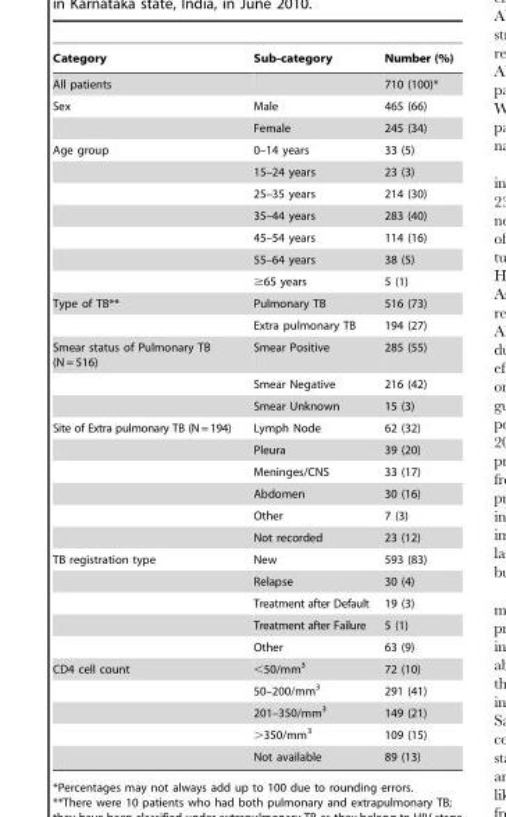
<table><thead><tr><td>Category</td><td>Sub-category</td><td>Number (%)</td></tr></thead><tbody><tr><td>All patients</td><td></td><td>710 (100)*</td></tr><tr><td rowspan="2">Sex</td><td>Male</td><td>465 (66)</td></tr><tr><td>Female</td><td>245 (34)</td></tr><tr><td rowspan="7">Age group</td><td>0–14 years</td><td>33 (5)</td></tr><tr><td>15–24 years</td><td>23 (3)</td></tr><tr><td>25–35 years</td><td>214 (30)</td></tr><tr><td>35–44 years</td><td>283 (40)</td></tr><tr><td>45–54 years</td><td>114 (16)</td></tr><tr><td>55–64 years</td><td>38 (5)</td></tr><tr><td>≥65 years</td><td>5 (1)</td></tr><tr><td rowspan="2">Type of TB**</td><td>Pulmonary TB</td><td>516 (73)</td></tr><tr><td>Extra pulmonary TB</td><td>194 (27)</td></tr><tr><td rowspan="3">Smear status of Pulmonary TB (N = 516)</td><td>Smear Positive</td><td>285 (55)</td></tr><tr><td>Smear Negative</td><td>216 (42)</td></tr><tr><td>Smear Unknown</td><td>15 (3)</td></tr><tr><td rowspan="6">Site of Extra pulmonary TB (N=194)</td><td>Lymph Node</td><td>62 (32)</td></tr><tr><td>Pleura</td><td>39 (20)</td></tr><tr><td>Meninges/CNS</td><td>33 (17)</td></tr><tr><td>Abdomen</td><td>30 (16)</td></tr><tr><td>Other</td><td>7 (3)</td></tr><tr><td>Not recorded</td><td>23 (12)</td></tr><tr><td rowspan="5">TB registration type</td><td>New</td><td>593 (83)</td></tr><tr><td>Relapse</td><td>30 (4)</td></tr><tr><td>Treatment after Default</td><td>19 (3)</td></tr><tr><td>Treatment after Failure</td><td>5 (1)</td></tr><tr><td>Other</td><td>63 (9)</td></tr><tr><td rowspan="5">CD4 cell count</td><td>&lt;50/mm<sup>3</sup></td><td>72 (10)</td></tr><tr><td>50–200/mm<sup>3</sup></td><td>291 (41)</td></tr><tr><td>201–350/mm<sup>3</sup></td><td>149 (21)</td></tr><tr><td>&gt;350/mm<sup>3</sup></td><td>109 (15)</td></tr><tr><td>Not available</td><td>89 (13)</td></tr></tbody></table>